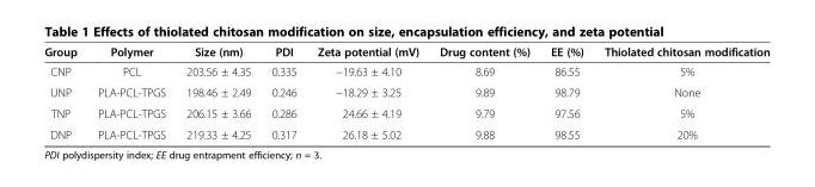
<table><thead><tr><td>Group</td><td>Polymer</td><td>Size (nm)</td><td>PDI</td><td>Zeta potential (mV)</td><td>Drug content (%)</td><td>EE (%)</td><td>Thiolated chitosan modification</td></tr></thead><tbody><tr><td>CNP</td><td>PCL</td><td>203.56 ± 4.35</td><td>0.335</td><td>−19.63 ± 4.10</td><td>8.69</td><td>86.55</td><td>5%</td></tr><tr><td>UNP</td><td>PLA-PCL-TPGS</td><td>198.46 ± 2.49</td><td>0.246</td><td>−18.29 ± 3.25</td><td>9.89</td><td>98.79</td><td>None</td></tr><tr><td>TNP</td><td>PLA-PCL-TPGS</td><td>206.15 ± 3.66</td><td>0.286</td><td>24.66 ± 4.19</td><td>9.79</td><td>97.56</td><td>5%</td></tr><tr><td>DNP</td><td>PLA-PCL-TPGS</td><td>219.33 ± 4.25</td><td>0.317</td><td>26.18 ± 5.02</td><td>9.88</td><td>98.55</td><td>20%</td></tr></tbody></table>